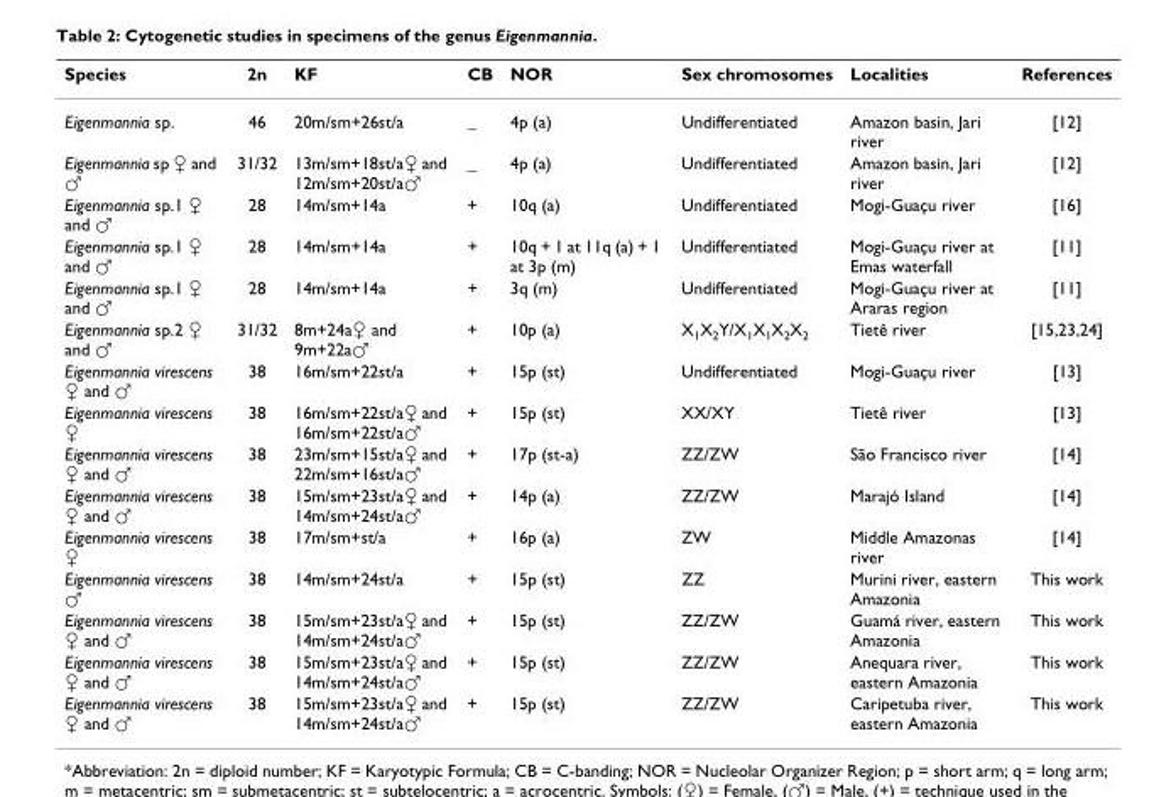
<table><thead><tr><td>Species</td><td>2n</td><td>KF</td><td>CB</td><td>NOR</td><td>Sex chromosomes</td><td>Localities</td><td>References</td></tr></thead><tbody><tr><td>Eigenmannia sp.</td><td>46</td><td>20m/sm+26st/a</td><td>_</td><td>4p (a)</td><td>Undifferentiated</td><td>Amazon basin, Jari river</td><td>[12]</td></tr><tr><td>Eigenmannia sp ♀ and ♂</td><td>31/32</td><td>13m/sm+18st/a♀ and 12m/sm+20st/a♂</td><td>_</td><td>4p (a)</td><td>Undifferentiated</td><td>Amazon basin, Jari river</td><td>[12]</td></tr><tr><td>Eigenmannia sp.1 ♀ and ♂</td><td>28</td><td>14m/sm+14a</td><td>+</td><td>10q (a)</td><td>Undifferentiated</td><td>Mogi-Guaçu river</td><td>[16]</td></tr><tr><td>Eigenmannia sp.1 ♀ and ♂</td><td>28</td><td>14m/sm+14a</td><td>+</td><td>10q + 1 at 11q (a) + 1 at 3p (m)</td><td>Undifferentiated</td><td>Mogi-Guaçu river at Emas waterfall</td><td>[11]</td></tr><tr><td>Eigenmannia sp.1 ♀ and ♂</td><td>28</td><td>14m/sm+14a</td><td>+</td><td>3q (m)</td><td>Undifferentiated</td><td>Mogi-Guaçu river at Araras region</td><td>[11]</td></tr><tr><td>Eigenmannia sp.2 ♀ and ♂</td><td>31/32</td><td>8m+24a♀ and 9m+22a♂</td><td>+</td><td>10p (a)</td><td>X<sub>1</sub>X<sub>2</sub>Y/X<sub>1</sub>X<sub>1</sub>X<sub>2</sub>X<sub>2</sub></td><td>Tietê river</td><td>[15,23,24]</td></tr><tr><td>Eigenmannia virescens ♀ and ♂</td><td>38</td><td>16m/sm+22st/a</td><td>+</td><td>15p (st)</td><td>Undifferentiated</td><td>Mogi-Guaçu river</td><td>[13]</td></tr><tr><td>Eigenmannia virescens ♀</td><td>38</td><td>16m/sm+22st/a♀ and 16m/sm+22st/a♂</td><td>+</td><td>15p (st)</td><td>XX/XY</td><td>Tietê river</td><td>[13]</td></tr><tr><td>Eigenmannia virescens ♀ and ♂</td><td>38</td><td>23m/sm+15st/a♀ and 22m/sm+16st/a♂</td><td>+</td><td>17p (st-a)</td><td>ZZ/ZW</td><td>São Francisco river</td><td>[14]</td></tr><tr><td>Eigenmannia virescens ♀ and ♂</td><td>38</td><td>15m/sm+23st/a♀ and 14m/sm+24st/a♂</td><td>+</td><td>14p (a)</td><td>ZZ/ZW</td><td>Marajó Island</td><td>[14]</td></tr><tr><td>Eigenmannia virescens ♀</td><td>38</td><td>17m/sm+st/a</td><td>+</td><td>16p (a)</td><td>ZW</td><td>Middle Amazonas river</td><td>[14]</td></tr><tr><td>Eigenmannia virescens ♂</td><td>38</td><td>14m/sm+24st/a</td><td>+</td><td>15p (st)</td><td>ZZ</td><td>Murini river, eastern Amazonia</td><td>This work</td></tr><tr><td>Eigenmannia virescens ♀ and ♂</td><td>38</td><td>15m/sm+23st/a♀ and 14m/sm+24st/a♂</td><td>+</td><td>15p (st)</td><td>ZZ/ZW</td><td>Guamá river, eastern Amazonia</td><td>This work</td></tr><tr><td>Eigenmannia virescens ♀ and ♂</td><td>38</td><td>15m/sm+23st/a♀ and 14m/sm+24st/a♂</td><td>+</td><td>15p (st)</td><td>ZZ/ZW</td><td>Anequara river, eastern Amazonia</td><td>This work</td></tr><tr><td>Eigenmannia virescens ♀ and ♂</td><td>38</td><td>15m/sm+23st/a♀ and 14m/sm+24st/a♂</td><td>+</td><td>15p (st)</td><td>ZZ/ZW</td><td>Caripetuba river, eastern Amazonia</td><td>This work</td></tr></tbody></table>